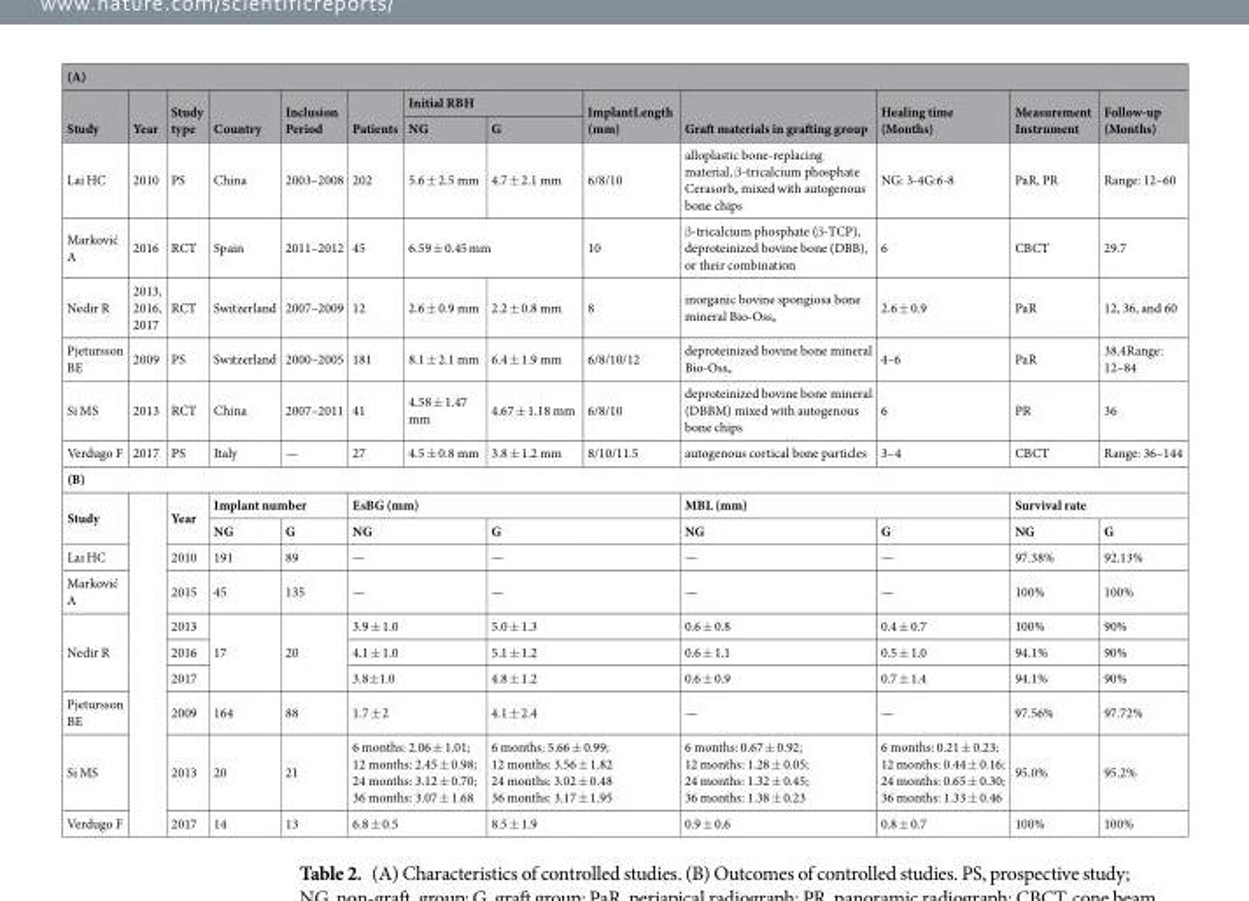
<table><thead><tr><td colspan="13">(A)</td></tr><tr><td rowspan="2">Study</td><td rowspan="2">Year</td><td rowspan="2">Study type</td><td rowspan="2">Country</td><td rowspan="2">Inclusion Period</td><td rowspan="2">Patients</td><td colspan="2">Initial RBH</td><td rowspan="2">ImplantLength (mm)</td><td rowspan="2">Graft materials in grafting group</td><td rowspan="2">Healing time (Months)</td><td rowspan="2">Measurement Instrument</td><td rowspan="2">Follow-up (Months)</td></tr><tr><td>NG</td><td>G</td></tr></thead><tbody><tr><td>Lai HC</td><td>2010</td><td>PS</td><td>China</td><td>2003–2008</td><td>202</td><td>5.6 ± 2.5 mm</td><td>4.7 ± 2.1 mm</td><td>6/8/10</td><td>alloplastic bone-replacing material, β-tricalcium phosphate Cerasorb® mixed with autogenous bone chips</td><td>NG: 3-4G:6-8</td><td>PaR, PR</td><td>Range: 12–60</td></tr><tr><td>Marković A</td><td>2016</td><td>RCT</td><td>Spain</td><td>2011–2012</td><td>45</td><td colspan="2">6.59 ± 0.45 mm</td><td>10</td><td>β-tricalcium phosphate (β-TCP), deproteinized bovine bone (DBB), or their combination</td><td>6</td><td>CBCT</td><td>29.7</td></tr><tr><td>Nedir R</td><td>2013, 2016, 2017</td><td>RCT</td><td>Switzerland</td><td>2007–2009</td><td>12</td><td>2.6 ± 0.9 mm</td><td>2.2 ± 0.8 mm</td><td>8</td><td>inorganic bovine spongiosa bone mineral Bio-Oss®</td><td>2.6 ± 0.9</td><td>PaR</td><td>12, 36, and 60</td></tr><tr><td>Pjetursson BE</td><td>2009</td><td>PS</td><td>Switzerland</td><td>2000–2005</td><td>181</td><td>8.1 ± 2.1 mm</td><td>6.4 ± 1.9 mm</td><td>6/8/10/12</td><td>deproteinized bovine bone mineral Bio-Oss®</td><td>4–6</td><td>PaR</td><td>38.4Range: 12–84</td></tr><tr><td>Si MS</td><td>2013</td><td>RCT</td><td>China</td><td>2007–2011</td><td>41</td><td>4.58 ± 1.47 mm</td><td>4.67 ± 1.18 mm</td><td>6/8/10</td><td>deproteinized bovine bone mineral (DBBM) mixed with autogenous bone chips</td><td>6</td><td>PR</td><td>36</td></tr><tr><td>Verdugo F</td><td>2017</td><td>PS</td><td>Italy</td><td>—</td><td>27</td><td>4.5 ± 0.8 mm</td><td>3.8 ± 1.2 mm</td><td>8/10/11.5</td><td>autogenous cortical bone particles</td><td>3–4</td><td>CBCT</td><td>Range: 36–144</td></tr><tr><td colspan="13">(B)</td></tr><tr><td rowspan="2">Study</td><td rowspan="10"></td><td rowspan="2">Year</td><td colspan="2">Implant number</td><td colspan="4">EsBG (mm)</td><td colspan="2">MBL (mm)</td><td colspan="2">Survival rate</td></tr><tr><td>NG</td><td>G</td><td colspan="2">NG</td><td colspan="2">G</td><td>NG</td><td>G</td><td>NG</td><td>G</td></tr><tr><td>Lai HC</td><td>2010</td><td>191</td><td>89</td><td colspan="2">—</td><td colspan="2">—</td><td>—</td><td>—</td><td>97.38%</td><td>92.13%</td></tr><tr><td>Marković A</td><td>2015</td><td>45</td><td>135</td><td colspan="2">—</td><td colspan="2">—</td><td>—</td><td>—</td><td>100%</td><td>100%</td></tr><tr><td rowspan="3">Nedir R</td><td>2013</td><td rowspan="3">17</td><td rowspan="3">20</td><td colspan="2">3.9 ± 1.0</td><td colspan="2">5.0 ± 1.3</td><td>0.6 ± 0.8</td><td>0.4 ± 0.7</td><td>100%</td><td>90%</td></tr><tr><td>2016</td><td colspan="2">4.1 ± 1.0</td><td colspan="2">5.1 ± 1.2</td><td>0.6 ± 1.1</td><td>0.5 ± 1.0</td><td>94.1%</td><td>90%</td></tr><tr><td>2017</td><td colspan="2">3.8±1.0</td><td colspan="2">4.8 ± 1.2</td><td>0.6 ± 0.9</td><td>0.7 ± 1.4</td><td>94.1%</td><td>90%</td></tr><tr><td>Pjetursson BE</td><td>2009</td><td>164</td><td>88</td><td colspan="2">1.7 ± 2</td><td colspan="2">4.1 ± 2.4</td><td>—</td><td>—</td><td>97.56%</td><td>97.72%</td></tr><tr><td>Si MS</td><td>2013</td><td>20</td><td>21</td><td colspan="2">6 months: 2.06 ± 1.01; 12 months: 2.45 ± 0.98; 24 months: 3.12 ± 0.70; 36 months: 3.07 ± 1.68</td><td colspan="2">6 months: 5.66 ± 0.99; 12 months: 3.56 ± 1.82 24 months: 3.02 ± 0.48 36 months: 3.17 ± 1.95</td><td>6 months: 0.67 ± 0.92; 12 months: 1.28 ± 0.05; 24 months: 1.32 ± 0.45; 36 months: 1.38 ± 0.23</td><td>6 months: 0.21 ± 0.23; 12 months: 0.44 ± 0.16; 24 months: 0.65 ± 0.30; 36 months: 1.33 ± 0.46</td><td>95.0%</td><td>95.2%</td></tr><tr><td>Verdugo F</td><td>2017</td><td>14</td><td>13</td><td colspan="2">6.8 ± 0.5</td><td colspan="2">8.5 ± 1.9</td><td>0.9 ± 0.6</td><td>0.8 ± 0.7</td><td>100%</td><td>100%</td></tr></tbody></table>